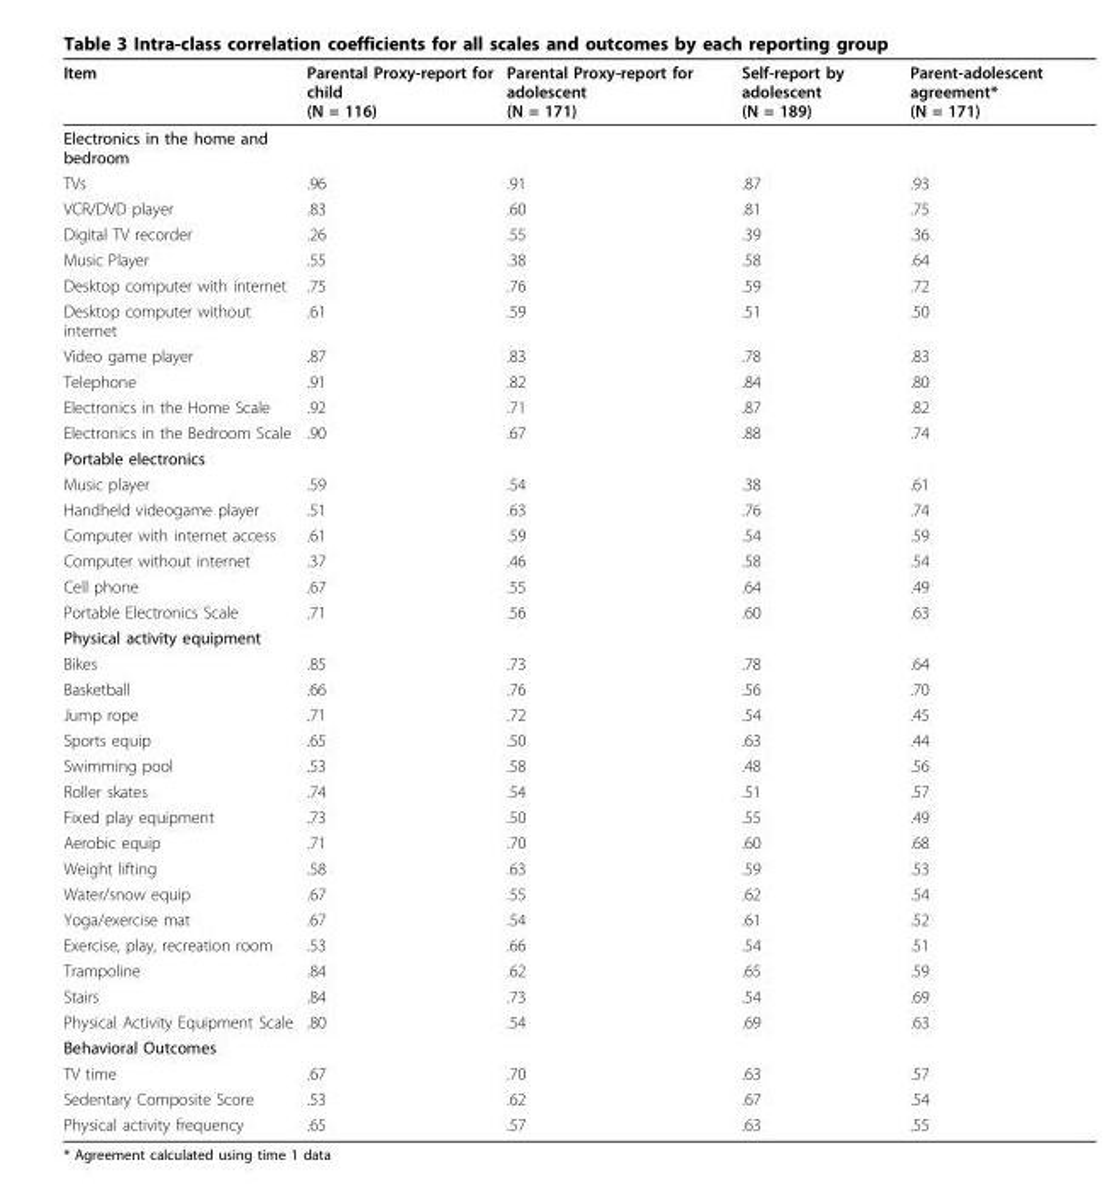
<table><thead><tr><td>Item</td><td>Parental Proxy-report for child (N = 116)</td><td>Parental Proxy-report for adolescent (N = 171)</td><td>Self-report by adolescent (N = 189)</td><td>Parent-adolescent agreement* (N = 171)</td></tr></thead><tbody><tr><td colspan="5">Electronics in the home and bedroom</td></tr><tr><td>TVs</td><td>.96</td><td>.91</td><td>.87</td><td>.93</td></tr><tr><td>VCR/DVD player</td><td>.83</td><td>.60</td><td>.81</td><td>.75</td></tr><tr><td>Digital TV recorder</td><td>.26</td><td>.55</td><td>.39</td><td>.36</td></tr><tr><td>Music Player</td><td>.55</td><td>.38</td><td>.58</td><td>.64</td></tr><tr><td>Desktop computer with internet</td><td>.75</td><td>.76</td><td>.59</td><td>.72</td></tr><tr><td>Desktop computer without internet</td><td>.61</td><td>.59</td><td>.51</td><td>.50</td></tr><tr><td>Video game player</td><td>.87</td><td>.83</td><td>.78</td><td>.83</td></tr><tr><td>Telephone</td><td>.91</td><td>.82</td><td>.84</td><td>.80</td></tr><tr><td>Electronics in the Home Scale</td><td>.92</td><td>.71</td><td>.87</td><td>.82</td></tr><tr><td>Electronics in the Bedroom Scale</td><td>.90</td><td>.67</td><td>.88</td><td>.74</td></tr><tr><td colspan="5">Portable electronics</td></tr><tr><td>Music player</td><td>.59</td><td>.54</td><td>.38</td><td>.61</td></tr><tr><td>Handheld videogame player</td><td>.51</td><td>.63</td><td>.76</td><td>.74</td></tr><tr><td>Computer with internet access</td><td>.61</td><td>.59</td><td>.54</td><td>.59</td></tr><tr><td>Computer without internet</td><td>.37</td><td>.46</td><td>.58</td><td>.54</td></tr><tr><td>Cell phone</td><td>.67</td><td>.55</td><td>.64</td><td>.49</td></tr><tr><td>Portable Electronics Scale</td><td>.71</td><td>.56</td><td>.60</td><td>.63</td></tr><tr><td colspan="5">Physical activity equipment</td></tr><tr><td>Bikes</td><td>.85</td><td>.73</td><td>.78</td><td>.64</td></tr><tr><td>Basketball</td><td>.66</td><td>.76</td><td>.56</td><td>.70</td></tr><tr><td>Jump rope</td><td>.71</td><td>.72</td><td>.54</td><td>.45</td></tr><tr><td>Sports equip</td><td>.65</td><td>.50</td><td>.63</td><td>.44</td></tr><tr><td>Swimming pool</td><td>.53</td><td>.58</td><td>.48</td><td>.56</td></tr><tr><td>Roller skates</td><td>.74</td><td>.54</td><td>.51</td><td>.57</td></tr><tr><td>Fixed play equipment</td><td>.73</td><td>.50</td><td>.55</td><td>.49</td></tr><tr><td>Aerobic equip</td><td>.71</td><td>.70</td><td>.60</td><td>.68</td></tr><tr><td>Weight lifting</td><td>.58</td><td>.63</td><td>.59</td><td>.53</td></tr><tr><td>Water/snow equip</td><td>.67</td><td>.55</td><td>.62</td><td>.54</td></tr><tr><td>Yoga/exercise mat</td><td>.67</td><td>.54</td><td>.61</td><td>.52</td></tr><tr><td>Exercise, play, recreation room</td><td>.53</td><td>.66</td><td>.54</td><td>.51</td></tr><tr><td>Trampoline</td><td>.84</td><td>.62</td><td>.65</td><td>.59</td></tr><tr><td>Stairs</td><td>.84</td><td>.73</td><td>.54</td><td>.69</td></tr><tr><td>Physical Activity Equipment Scale</td><td>.80</td><td>.54</td><td>.69</td><td>.63</td></tr><tr><td colspan="5">Behavioral Outcomes</td></tr><tr><td>TV time</td><td>.67</td><td>.70</td><td>.63</td><td>.57</td></tr><tr><td>Sedentary Composite Score</td><td>.53</td><td>.62</td><td>.67</td><td>.54</td></tr><tr><td>Physical activity frequency</td><td>.65</td><td>.57</td><td>.63</td><td>.55</td></tr></tbody></table>